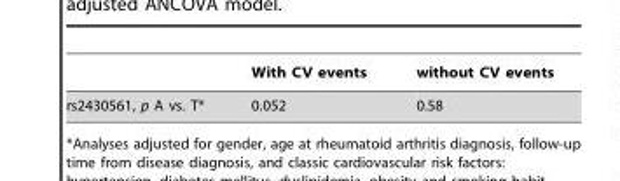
<table><thead><tr><td></td><td>With CV events</td><td>without CV events</td></tr></thead><tbody><tr><td>rs2430561, p A vs. T*</td><td>0.052</td><td>0.58</td></tr></tbody></table>